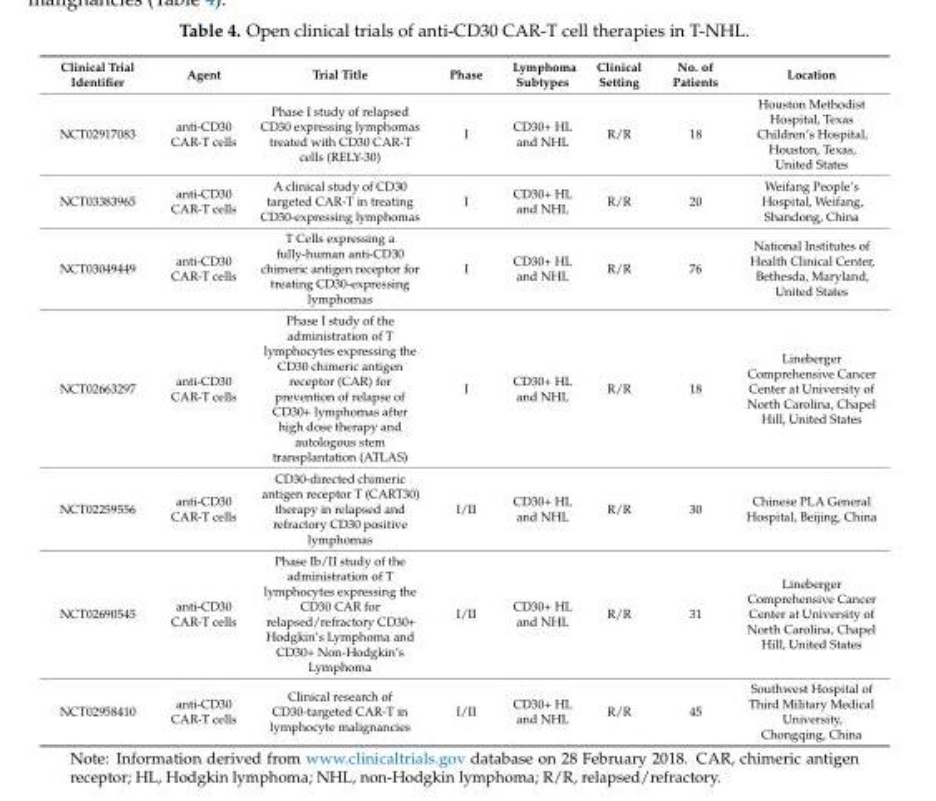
<table><thead><tr><td>Clinical Trial Identifier</td><td>Agent</td><td>Trial Title</td><td>Phase</td><td>Lymphoma Subtypes</td><td>Clinical Setting</td><td>No. of Patients</td><td>Location</td></tr></thead><tbody><tr><td>NCT02917083</td><td>anti-CD30 CAR-T cells</td><td>Phase I study of relapsed CD30 expressing lymphomas treated with CD30 CAR-T cells (RELY-30)</td><td>I</td><td>CD30+ HL and NHL</td><td>R/R</td><td>18</td><td>Houston Methodist Hospital, Texas Children’s Hospital, Houston, Texas, United States</td></tr><tr><td>NCT03383965</td><td>anti-CD30 CAR-T cells</td><td>A clinical study of CD30 targeted CAR-T in treating CD30-expressing lymphomas</td><td>I</td><td>CD30+ HL and NHL</td><td>R/R</td><td>20</td><td>Weifang People’s Hospital, Weifang, Shandong, China</td></tr><tr><td>NCT03049449</td><td>anti-CD30 CAR-T cells</td><td>T Cells expressing a fully-human anti-CD30 chimeric antigen receptor for treating CD30-expressing lymphomas</td><td>I</td><td>CD30+ HL and NHL</td><td>R/R</td><td>76</td><td>National Institutes of Health Clinical Center, Bethesda, Maryland, United States</td></tr><tr><td>NCT02663297</td><td>anti-CD30 CAR-T cells</td><td>Phase I study of the administration of T lymphocytes expressing the CD30 chimeric antigen receptor (CAR) for prevention of relapse of CD30+ lymphomas after high dose therapy and autologous stem transplantation (ATLAS)</td><td>I</td><td>CD30+ HL and NHL</td><td>R/R</td><td>18</td><td>Lineberger Comprehensive Cancer Center at University of North Carolina, Chapel Hill, United States</td></tr><tr><td>NCT02259556</td><td>anti-CD30 CAR-T cells</td><td>CD30-directed chimeric antigen receptor T (CART30) therapy in relapsed and refractory CD30 positive lymphomas</td><td>I/II</td><td>CD30+ HL and NHL</td><td>R/R</td><td>30</td><td>Chinese PLA General Hospital, Beijing, China</td></tr><tr><td>NCT02690545</td><td>anti-CD30 CAR-T cells</td><td>Phase Ib/II study of the administration of T lymphocytes expressing the CD30 CAR for relapsed/refractory CD30+ Hodgkin’s Lymphoma and CD30+ Non-Hodgkin’s Lymphoma</td><td>I/II</td><td>CD30+ HL and NHL</td><td>R/R</td><td>31</td><td>Lineberger Comprehensive Cancer Center at University of North Carolina, Chapel Hill, United States</td></tr><tr><td>NCT02958410</td><td>anti-CD30 CAR-T cells</td><td>Clinical research of CD30-targeted CAR-T in lymphocyte malignancies</td><td>I/II</td><td>CD30+ HL and NHL</td><td>R/R</td><td>45</td><td>Southwest Hospital of Third Military Medical University, Chongqing, China</td></tr></tbody></table>